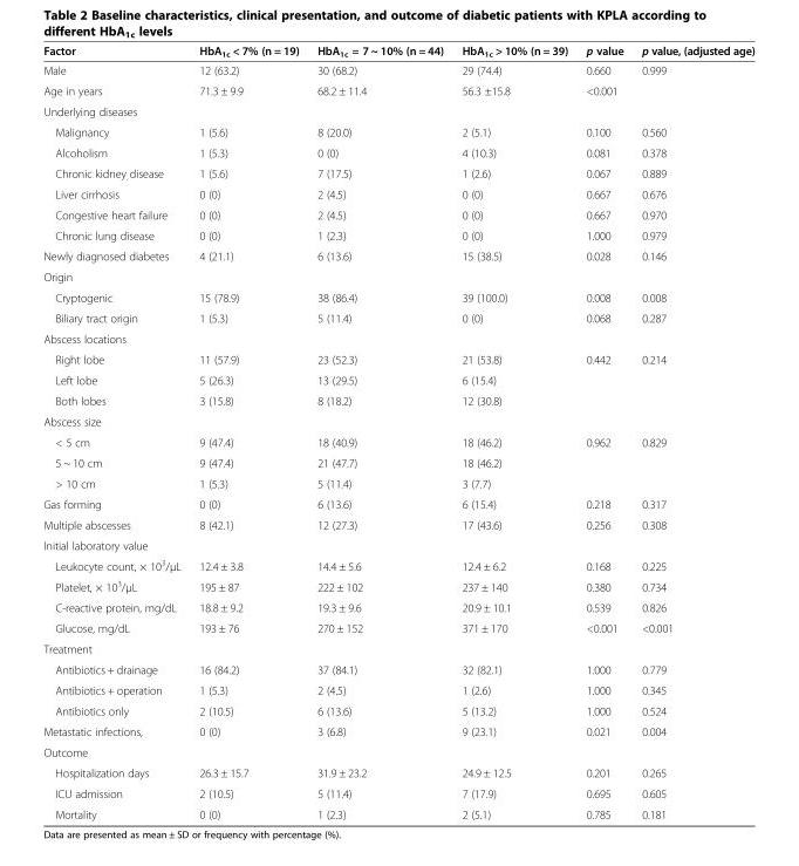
<table><thead><tr><td>Factor</td><td>HbA<sub>1c</sub> &lt; 7% (n = 19)</td><td>HbA<sub>1c</sub> = 7 ~ 10% (n = 44)</td><td>HbA1c &gt; 10% (n = 39)</td><td>p value</td><td>p value, (adjusted age)</td></tr></thead><tbody><tr><td>Male</td><td>12 (63.2)</td><td>30 (68.2)</td><td>29 (74.4)</td><td>0.660</td><td>0.999</td></tr><tr><td>Age in years</td><td>71.3 ± 9.9</td><td>68.2 ± 11.4</td><td>56.3 ±15.8</td><td>&lt;0.001</td><td></td></tr><tr><td colspan="6">Underlying diseases</td></tr><tr><td>Malignancy</td><td>1 (5.6)</td><td>8 (20.0)</td><td>2 (5.1)</td><td>0.100</td><td>0.560</td></tr><tr><td>Alcoholism</td><td>1 (5.3)</td><td>0 (0)</td><td>4 (10.3)</td><td>0.081</td><td>0.378</td></tr><tr><td>Chronic kidney disease</td><td>1 (5.6)</td><td>7 (17.5)</td><td>1 (2.6)</td><td>0.067</td><td>0.889</td></tr><tr><td>Liver cirrhosis</td><td>0 (0)</td><td>2 (4.5)</td><td>0 (0)</td><td>0.667</td><td>0.676</td></tr><tr><td>Congestive heart failure</td><td>0 (0)</td><td>2 (4.5)</td><td>0 (0)</td><td>0.667</td><td>0.970</td></tr><tr><td>Chronic lung disease</td><td>0 (0)</td><td>1 (2.3)</td><td>0 (0)</td><td>1.000</td><td>0.979</td></tr><tr><td>Newly diagnosed diabetes</td><td>4 (21.1)</td><td>6 (13.6)</td><td>15 (38.5)</td><td>0.028</td><td>0.146</td></tr><tr><td colspan="6">Origin</td></tr><tr><td>Cryptogenic</td><td>15 (78.9)</td><td>38 (86.4)</td><td>39 (100.0)</td><td>0.008</td><td>0.008</td></tr><tr><td>Biliary tract origin</td><td>1 (5.3)</td><td>5 (11.4)</td><td>0 (0)</td><td>0.068</td><td>0.287</td></tr><tr><td colspan="6">Abscess locations</td></tr><tr><td>Right lobe</td><td>11 (57.9)</td><td>23 (52.3)</td><td>21 (53.8)</td><td>0.442</td><td>0.214</td></tr><tr><td>Left lobe</td><td>5 (26.3)</td><td>13 (29.5)</td><td>6 (15.4)</td><td></td><td></td></tr><tr><td>Both lobes</td><td>3 (15.8)</td><td>8 (18.2)</td><td>12 (30.8)</td><td></td><td></td></tr><tr><td colspan="6">Abscess size</td></tr><tr><td>&lt; 5 cm</td><td>9 (47.4)</td><td>18 (40.9)</td><td>18 (46.2)</td><td>0.962</td><td>0.829</td></tr><tr><td>5 ~ 10 cm</td><td>9 (47.4)</td><td>21 (47.7)</td><td>18 (46.2)</td><td></td><td></td></tr><tr><td>&gt; 10 cm</td><td>1 (5.3)</td><td>5 (11.4)</td><td>3 (7.7)</td><td></td><td></td></tr><tr><td>Gas forming</td><td>0 (0)</td><td>6 (13.6)</td><td>6 (15.4)</td><td>0.218</td><td>0.317</td></tr><tr><td>Multiple abscesses</td><td>8 (42.1)</td><td>12 (27.3)</td><td>17 (43.6)</td><td>0.256</td><td>0.308</td></tr><tr><td colspan="6">Initial laboratory value</td></tr><tr><td>Leukocyte count, × 10<sup>3</sup>/μL</td><td>12.4 ± 3.8</td><td>14.4 ± 5.6</td><td>12.4 ± 6.2</td><td>0.168</td><td>0.225</td></tr><tr><td>Platelet, × 10<sup>3</sup>/μL</td><td>195 ± 87</td><td>222 ± 102</td><td>237 ± 140</td><td>0.380</td><td>0.734</td></tr><tr><td>C-reactive protein, mg/dL</td><td>18.8 ± 9.2</td><td>19.3 ± 9.6</td><td>20.9 ± 10.1</td><td>0.539</td><td>0.826</td></tr><tr><td>Glucose, mg/dL</td><td>193 ± 76</td><td>270 ± 152</td><td>371 ± 170</td><td>&lt;0.001</td><td>&lt;0.001</td></tr><tr><td colspan="6">Treatment</td></tr><tr><td>Antibiotics + drainage</td><td>16 (84.2)</td><td>37 (84.1)</td><td>32 (82.1)</td><td>1.000</td><td>0.779</td></tr><tr><td>Antibiotics + operation</td><td>1 (5.3)</td><td>2 (4.5)</td><td>1 (2.6)</td><td>1.000</td><td>0.345</td></tr><tr><td>Antibiotics only</td><td>2 (10.5)</td><td>6 (13.6)</td><td>5 (13.2)</td><td>1.000</td><td>0.524</td></tr><tr><td>Metastatic infections,</td><td>0 (0)</td><td>3 (6.8)</td><td>9 (23.1)</td><td>0.021</td><td>0.004</td></tr><tr><td colspan="6">Outcome</td></tr><tr><td>Hospitalization days</td><td>26.3 ± 15.7</td><td>31.9 ± 23.2</td><td>24.9 ± 12.5</td><td>0.201</td><td>0.265</td></tr><tr><td>ICU admission</td><td>2 (10.5)</td><td>5 (11.4)</td><td>7 (17.9)</td><td>0.695</td><td>0.605</td></tr><tr><td>Mortality</td><td>0 (0)</td><td>1 (2.3)</td><td>2 (5.1)</td><td>0.785</td><td>0.181</td></tr></tbody></table>